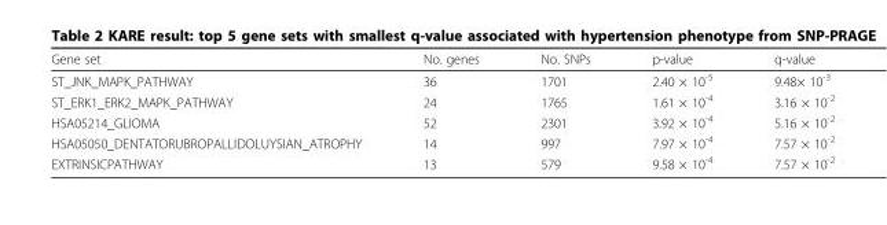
<table><thead><tr><td>Gene set</td><td>No. genes</td><td>No. SNPs</td><td>p-value</td><td>q-value</td></tr></thead><tbody><tr><td>ST_JNK_MAPK_PATHWAY</td><td>36</td><td>1701</td><td>2.40 × 10<sup>-5</sup></td><td>9.48× 10<sup>-3</sup></td></tr><tr><td>ST_ERK1_ERK2_MAPK_PATHWAY</td><td>24</td><td>1765</td><td>1.61 × 10<sup>-4</sup></td><td>3.16 × 10<sup>-2</sup></td></tr><tr><td>HSA05214_GLIOMA</td><td>52</td><td>2301</td><td>3.92 × 10<sup>-4</sup></td><td>5.16 × 10<sup>-2</sup></td></tr><tr><td>HSA05050_DENTATORUBROPALLIDOLUYSIAN_ATROPHY</td><td>14</td><td>997</td><td>7.97 × 10<sup>-4</sup></td><td>7.57 × 10<sup>-2</sup></td></tr><tr><td>EXTRINSICPATHWAY</td><td>13</td><td>579</td><td>9.58 × 10<sup>-4</sup></td><td>7.57 × 10<sup>-2</sup></td></tr></tbody></table>